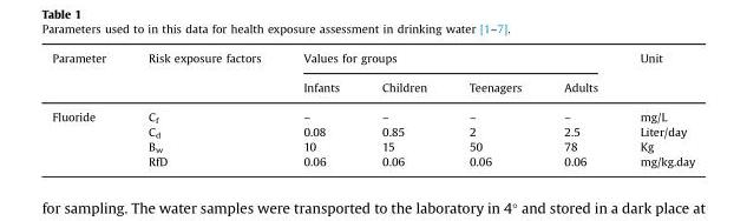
<table><thead><tr><td rowspan="2">Parameter</td><td rowspan="2">Risk exposure factors</td><td colspan="4">Values for groups</td><td rowspan="2">Unit</td></tr><tr><td>Infants</td><td>Children</td><td>Teenagers</td><td>Adults</td></tr></thead><tbody><tr><td rowspan="4">Fluoride</td><td>C<sub>f</sub></td><td>–</td><td>–</td><td>–</td><td>–</td><td>mg/L</td></tr><tr><td>C<sub>d</sub></td><td>0.08</td><td>0.85</td><td>2</td><td>2.5</td><td>Liter/day</td></tr><tr><td>B<sub>w</sub></td><td>10</td><td>15</td><td>50</td><td>78</td><td>Kg</td></tr><tr><td>RfD</td><td>0.06</td><td>0.06</td><td>0.06</td><td>0.06</td><td>mg/kg.day</td></tr></tbody></table>